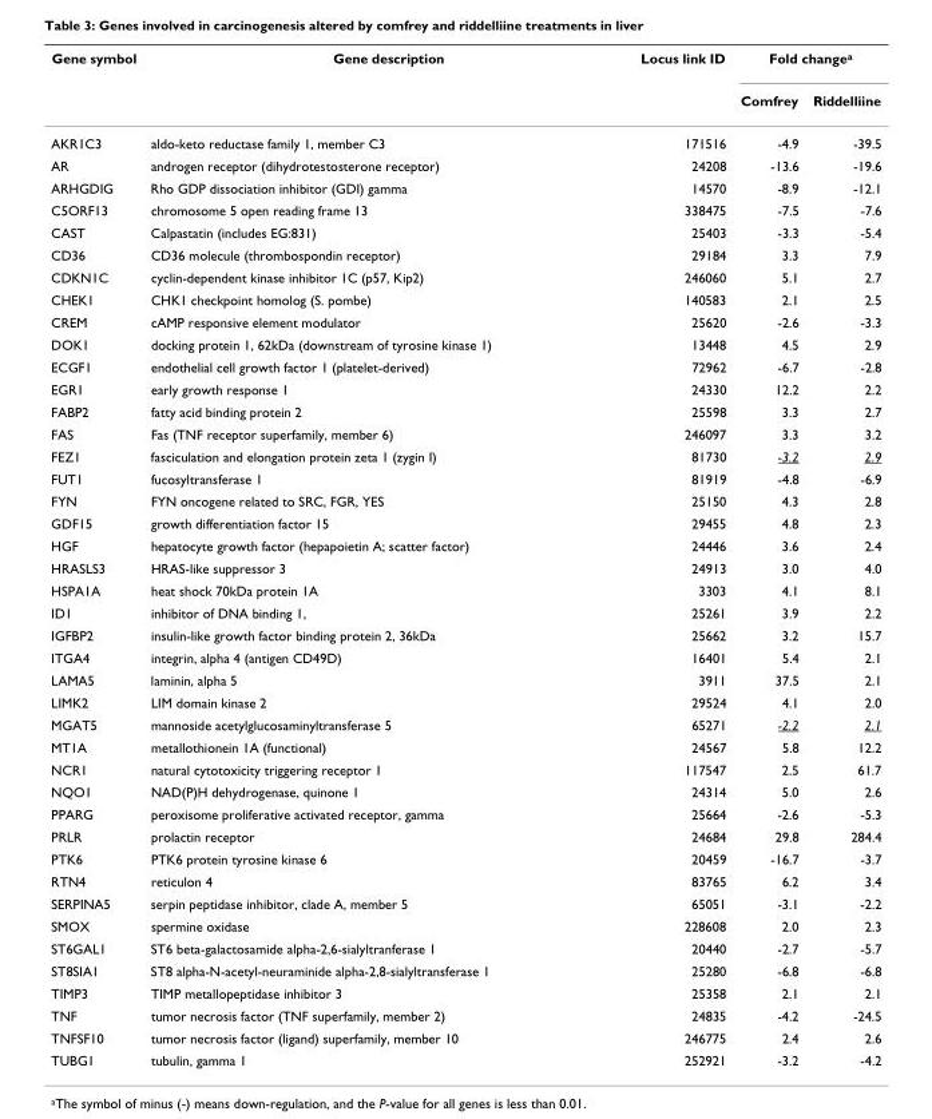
<table><thead><tr><td rowspan="2">Gene symbol</td><td rowspan="2">Gene description</td><td rowspan="2">Locus link ID</td><td colspan="2">Fold change<sup>a</sup></td></tr><tr><td>Comfrey</td><td>Riddelliine</td></tr></thead><tbody><tr><td>AKR1C3</td><td>aldo-keto reductase family 1, member C3</td><td>171516</td><td>-4.9</td><td>-39.5</td></tr><tr><td>AR</td><td>androgen receptor (dihydrotestosterone receptor)</td><td>24208</td><td>-13.6</td><td>-19.6</td></tr><tr><td>ARHGDIG</td><td>Rho GDP dissociation inhibitor (GDI) gamma</td><td>14570</td><td>-8.9</td><td>-12.1</td></tr><tr><td>C5ORF13</td><td>chromosome 5 open reading frame 13</td><td>338475</td><td>-7.5</td><td>-7.6</td></tr><tr><td>CAST</td><td>Calpastatin (includes EG:831)</td><td>25403</td><td>-3.3</td><td>-5.4</td></tr><tr><td>CD36</td><td>CD36 molecule (thrombospondin receptor)</td><td>29184</td><td>3.3</td><td>7.9</td></tr><tr><td>CDKN1C</td><td>cyclin-dependent kinase inhibitor 1C (p57, Kip2)</td><td>246060</td><td>5.1</td><td>2.7</td></tr><tr><td>CHEK1</td><td>CHK1 checkpoint homolog (S. pombe)</td><td>140583</td><td>2.1</td><td>2.5</td></tr><tr><td>CREM</td><td>cAMP responsive element modulator</td><td>25620</td><td>-2.6</td><td>-3.3</td></tr><tr><td>DOK1</td><td>docking protein 1, 62kDa (downstream of tyrosine kinase 1)</td><td>13448</td><td>4.5</td><td>2.9</td></tr><tr><td>ECGF1</td><td>endothelial cell growth factor 1 (platelet-derived)</td><td>72962</td><td>-6.7</td><td>-2.8</td></tr><tr><td>EGR1</td><td>early growth response 1</td><td>24330</td><td>12.2</td><td>2.2</td></tr><tr><td>FABP2</td><td>fatty acid binding protein 2</td><td>25598</td><td>3.3</td><td>2.7</td></tr><tr><td>FAS</td><td>Fas (TNF receptor superfamily, member 6)</td><td>246097</td><td>3.3</td><td>3.2</td></tr><tr><td>FEZ1</td><td>fasciculation and elongation protein zeta 1 (zygin I)</td><td>81730</td><td>-3.2</td><td>2.9</td></tr><tr><td>FUT1</td><td>fucosyltransferase 1</td><td>81919</td><td>-4.8</td><td>-6.9</td></tr><tr><td>FYN</td><td>FYN oncogene related to SRC, FGR, YES</td><td>25150</td><td>4.3</td><td>2.8</td></tr><tr><td>GDF15</td><td>growth differentiation factor 15</td><td>29455</td><td>4.8</td><td>2.3</td></tr><tr><td>HGF</td><td>hepatocyte growth factor (hepapoietin A; scatter factor)</td><td>24446</td><td>3.6</td><td>2.4</td></tr><tr><td>HRASLS3</td><td>HRAS-like suppressor 3</td><td>24913</td><td>3.0</td><td>4.0</td></tr><tr><td>HSPA1A</td><td>heat shock 70kDa protein 1A</td><td>3303</td><td>4.1</td><td>8.1</td></tr><tr><td>ID1</td><td>inhibitor of DNA binding 1,</td><td>25261</td><td>3.9</td><td>2.2</td></tr><tr><td>IGFBP2</td><td>insulin-like growth factor binding protein 2, 36kDa</td><td>25662</td><td>3.2</td><td>15.7</td></tr><tr><td>ITGA4</td><td>integrin, alpha 4 (antigen CD49D)</td><td>16401</td><td>5.4</td><td>2.1</td></tr><tr><td>LAMA5</td><td>laminin, alpha 5</td><td>3911</td><td>37.5</td><td>2.1</td></tr><tr><td>LIMK2</td><td>LIM domain kinase 2</td><td>29524</td><td>4.1</td><td>2.0</td></tr><tr><td>MGAT5</td><td>mannoside acetylglucosaminyltransferase 5</td><td>65271</td><td>-2.2</td><td>2.1</td></tr><tr><td>MT1A</td><td>metallothionein 1A (functional)</td><td>24567</td><td>5.8</td><td>12.2</td></tr><tr><td>NCR1</td><td>natural cytotoxicity triggering receptor 1</td><td>117547</td><td>2.5</td><td>61.7</td></tr><tr><td>NQO1</td><td>NAD(P)H dehydrogenase, quinone 1</td><td>24314</td><td>5.0</td><td>2.6</td></tr><tr><td>PPARG</td><td>peroxisome proliferative activated receptor, gamma</td><td>25664</td><td>-2.6</td><td>-5.3</td></tr><tr><td>PRLR</td><td>prolactin receptor</td><td>24684</td><td>29.8</td><td>284.4</td></tr><tr><td>PTK6</td><td>PTK6 protein tyrosine kinase 6</td><td>20459</td><td>-16.7</td><td>-3.7</td></tr><tr><td>RTN4</td><td>reticulon 4</td><td>83765</td><td>6.2</td><td>3.4</td></tr><tr><td>SERPINA5</td><td>serpin peptidase inhibitor, clade A, member 5</td><td>65051</td><td>-3.1</td><td>-2.2</td></tr><tr><td>SMOX</td><td>spermine oxidase</td><td>228608</td><td>2.0</td><td>2.3</td></tr><tr><td>ST6GAL1</td><td>ST6 beta-galactosamide alpha-2,6-sialyltranferase 1</td><td>20440</td><td>-2.7</td><td>-5.7</td></tr><tr><td>ST8SIA1</td><td>ST8 alpha-N-acetyl-neuraminide alpha-2,8-sialyltransferase 1</td><td>25280</td><td>-6.8</td><td>-6.8</td></tr><tr><td>TIMP3</td><td>TIMP metallopeptidase inhibitor 3</td><td>25358</td><td>2.1</td><td>2.1</td></tr><tr><td>TNF</td><td>tumor necrosis factor (TNF superfamily, member 2)</td><td>24835</td><td>-4.2</td><td>-24.5</td></tr><tr><td>TNFSF10</td><td>tumor necrosis factor (ligand) superfamily, member 10</td><td>246775</td><td>2.4</td><td>2.6</td></tr><tr><td>TUBG1</td><td>tubulin, gamma 1</td><td>252921</td><td>-3.2</td><td>-4.2</td></tr></tbody></table>